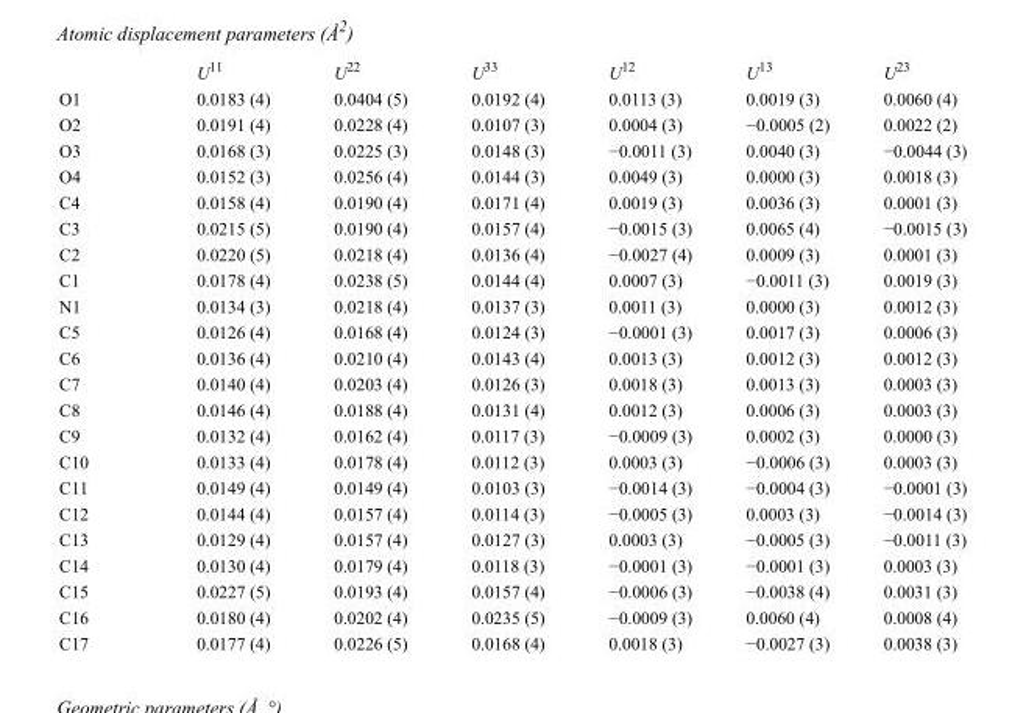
<table><thead><tr><td></td><td>U<sup>11</sup></td><td>U<sup>22</sup></td><td>U<sup>33</sup></td><td>U<sup>12</sup></td><td>U<sup>13</sup></td><td>U<sup>23</sup></td></tr></thead><tbody><tr><td>O1</td><td>0.0183 (4)</td><td>0.0404 (5)</td><td>0.0192 (4)</td><td>0.0113 (3)</td><td>0.0019 (3)</td><td>0.0060 (4)</td></tr><tr><td>O2</td><td>0.0191 (4)</td><td>0.0228 (4)</td><td>0.0107 (3)</td><td>0.0004 (3)</td><td>−0.0005 (2)</td><td>0.0022 (2)</td></tr><tr><td>O3</td><td>0.0168 (3)</td><td>0.0225 (3)</td><td>0.0148 (3)</td><td>−0.0011 (3)</td><td>0.0040 (3)</td><td>−0.0044 (3)</td></tr><tr><td>O4</td><td>0.0152 (3)</td><td>0.0256 (4)</td><td>0.0144 (3)</td><td>0.0049 (3)</td><td>0.0000 (3)</td><td>0.0018 (3)</td></tr><tr><td>C4</td><td>0.0158 (4)</td><td>0.0190 (4)</td><td>0.0171 (4)</td><td>0.0019 (3)</td><td>0.0036 (3)</td><td>0.0001 (3)</td></tr><tr><td>C3</td><td>0.0215 (5)</td><td>0.0190 (4)</td><td>0.0157 (4)</td><td>−0.0015 (3)</td><td>0.0065 (4)</td><td>−0.0015 (3)</td></tr><tr><td>C2</td><td>0.0220 (5)</td><td>0.0218 (4)</td><td>0.0136 (4)</td><td>−0.0027 (4)</td><td>0.0009 (3)</td><td>0.0001 (3)</td></tr><tr><td>C1</td><td>0.0178 (4)</td><td>0.0238 (5)</td><td>0.0144 (4)</td><td>0.0007 (3)</td><td>−0.0011 (3)</td><td>0.0019 (3)</td></tr><tr><td>N1</td><td>0.0134 (3)</td><td>0.0218 (4)</td><td>0.0137 (3)</td><td>0.0011 (3)</td><td>0.0000 (3)</td><td>0.0012 (3)</td></tr><tr><td>C5</td><td>0.0126 (4)</td><td>0.0168 (4)</td><td>0.0124 (3)</td><td>−0.0001 (3)</td><td>0.0017 (3)</td><td>0.0006 (3)</td></tr><tr><td>C6</td><td>0.0136 (4)</td><td>0.0210 (4)</td><td>0.0143 (4)</td><td>0.0013 (3)</td><td>0.0012 (3)</td><td>0.0012 (3)</td></tr><tr><td>C7</td><td>0.0140 (4)</td><td>0.0203 (4)</td><td>0.0126 (3)</td><td>0.0018 (3)</td><td>0.0013 (3)</td><td>0.0003 (3)</td></tr><tr><td>C8</td><td>0.0146 (4)</td><td>0.0188 (4)</td><td>0.0131 (4)</td><td>0.0012 (3)</td><td>0.0006 (3)</td><td>0.0003 (3)</td></tr><tr><td>C9</td><td>0.0132 (4)</td><td>0.0162 (4)</td><td>0.0117 (3)</td><td>−0.0009 (3)</td><td>0.0002 (3)</td><td>0.0000 (3)</td></tr><tr><td>C10</td><td>0.0133 (4)</td><td>0.0178 (4)</td><td>0.0112 (3)</td><td>0.0003 (3)</td><td>−0.0006 (3)</td><td>0.0003 (3)</td></tr><tr><td>C11</td><td>0.0149 (4)</td><td>0.0149 (4)</td><td>0.0103 (3)</td><td>−0.0014 (3)</td><td>−0.0004 (3)</td><td>−0.0001 (3)</td></tr><tr><td>C12</td><td>0.0144 (4)</td><td>0.0157 (4)</td><td>0.0114 (3)</td><td>−0.0005 (3)</td><td>0.0003 (3)</td><td>−0.0014 (3)</td></tr><tr><td>C13</td><td>0.0129 (4)</td><td>0.0157 (4)</td><td>0.0127 (3)</td><td>0.0003 (3)</td><td>−0.0005 (3)</td><td>−0.0011 (3)</td></tr><tr><td>C14</td><td>0.0130 (4)</td><td>0.0179 (4)</td><td>0.0118 (3)</td><td>−0.0001 (3)</td><td>−0.0001 (3)</td><td>0.0003 (3)</td></tr><tr><td>C15</td><td>0.0227 (5)</td><td>0.0193 (4)</td><td>0.0157 (4)</td><td>−0.0006 (3)</td><td>−0.0038 (4)</td><td>0.0031 (3)</td></tr><tr><td>C16</td><td>0.0180 (4)</td><td>0.0202 (4)</td><td>0.0235 (5)</td><td>−0.0009 (3)</td><td>0.0060 (4)</td><td>0.0008 (4)</td></tr><tr><td>C17</td><td>0.0177 (4)</td><td>0.0226 (5)</td><td>0.0168 (4)</td><td>0.0018 (3)</td><td>−0.0027 (3)</td><td>0.0038 (3)</td></tr></tbody></table>